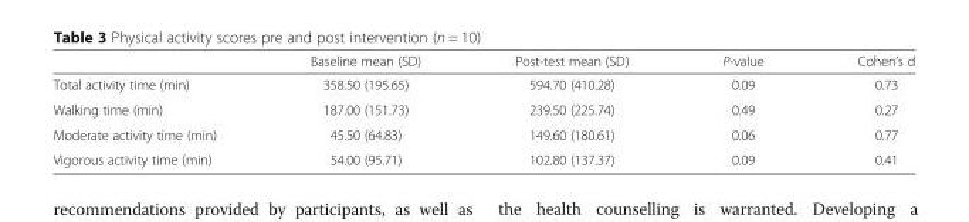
<table><thead><tr><td></td><td>Baseline mean (SD)</td><td>Post-test mean (SD)</td><td>P-value</td><td>Cohen’s d</td></tr></thead><tbody><tr><td>Total activity time (min)</td><td>358.50 (195.65)</td><td>594.70 (410.28)</td><td>0.09</td><td>0.73</td></tr><tr><td>Walking time (min)</td><td>187.00 (151.73)</td><td>239.50 (225.74)</td><td>0.49</td><td>0.27</td></tr><tr><td>Moderate activity time (min)</td><td>45.50 (64.83)</td><td>149.60 (180.61)</td><td>0.06</td><td>0.77</td></tr><tr><td>Vigorous activity time (min)</td><td>54.00 (95.71)</td><td>102.80 (137.37)</td><td>0.09</td><td>0.41</td></tr></tbody></table>